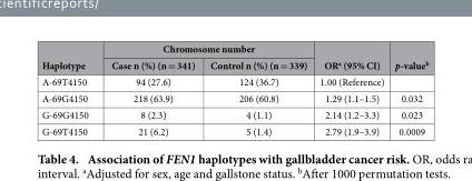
<table><thead><tr><td rowspan="2">Haplotype</td><td colspan="2">Chromosome number</td><td rowspan="2">OR<sup>a</sup> (95% CI)</td><td rowspan="2">p-value<sup>b</sup></td></tr><tr><td>Case n (%) (n = 341)</td><td>Control n (%) (n = 339)</td></tr></thead><tbody><tr><td>A-69T4150</td><td>94 (27.6)</td><td>124 (36.7)</td><td>1.00 (Reference)</td><td></td></tr><tr><td>A-69G4150</td><td>218 (63.9)</td><td>206 (60.8)</td><td>1.29 (1.1–1.5)</td><td>0.032</td></tr><tr><td>G-69G4150</td><td>8 (2.3)</td><td>4 (1.1)</td><td>2.14 (1.2–3.3)</td><td>0.023</td></tr><tr><td>G-69T4150</td><td>21 (6.2)</td><td>5 (1.4)</td><td>2.79 (1.9–3.9)</td><td>0.0009</td></tr></tbody></table>